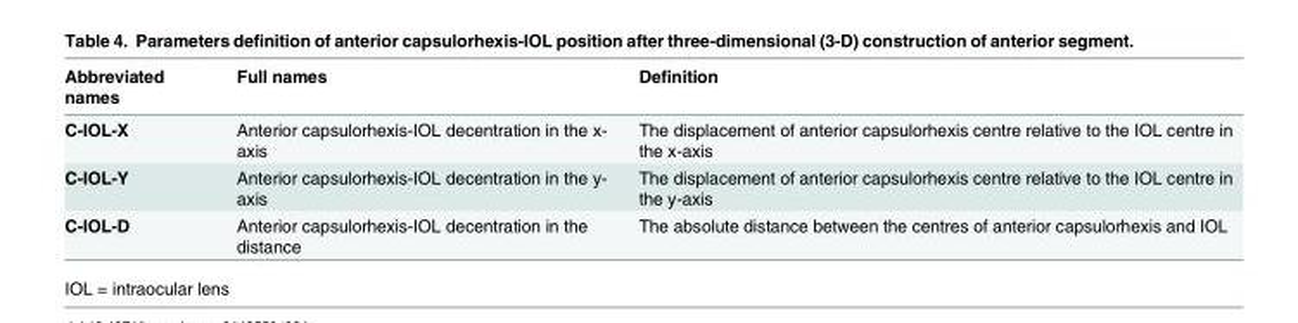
<table><thead><tr><td>Abbreviated names</td><td>Full names</td><td>Definition</td></tr></thead><tbody><tr><td>C-IOL-X</td><td>Anterior capsulorhexis-IOL decentration in the x- axis</td><td>The displacement of anterior capsulorhexis centre relative to the IOL centre in the x-axis</td></tr><tr><td>C-IOL-Y</td><td>Anterior capsulorhexis-IOL decentration in the y- axis</td><td>The displacement of anterior capsulorhexis centre relative to the IOL centre in the y-axis</td></tr><tr><td>C-IOL-D</td><td>Anterior capsulorhexis-IOL decentration in the distance</td><td>The absolute distance between the centres of anterior capsulorhexis and IOL</td></tr></tbody></table>